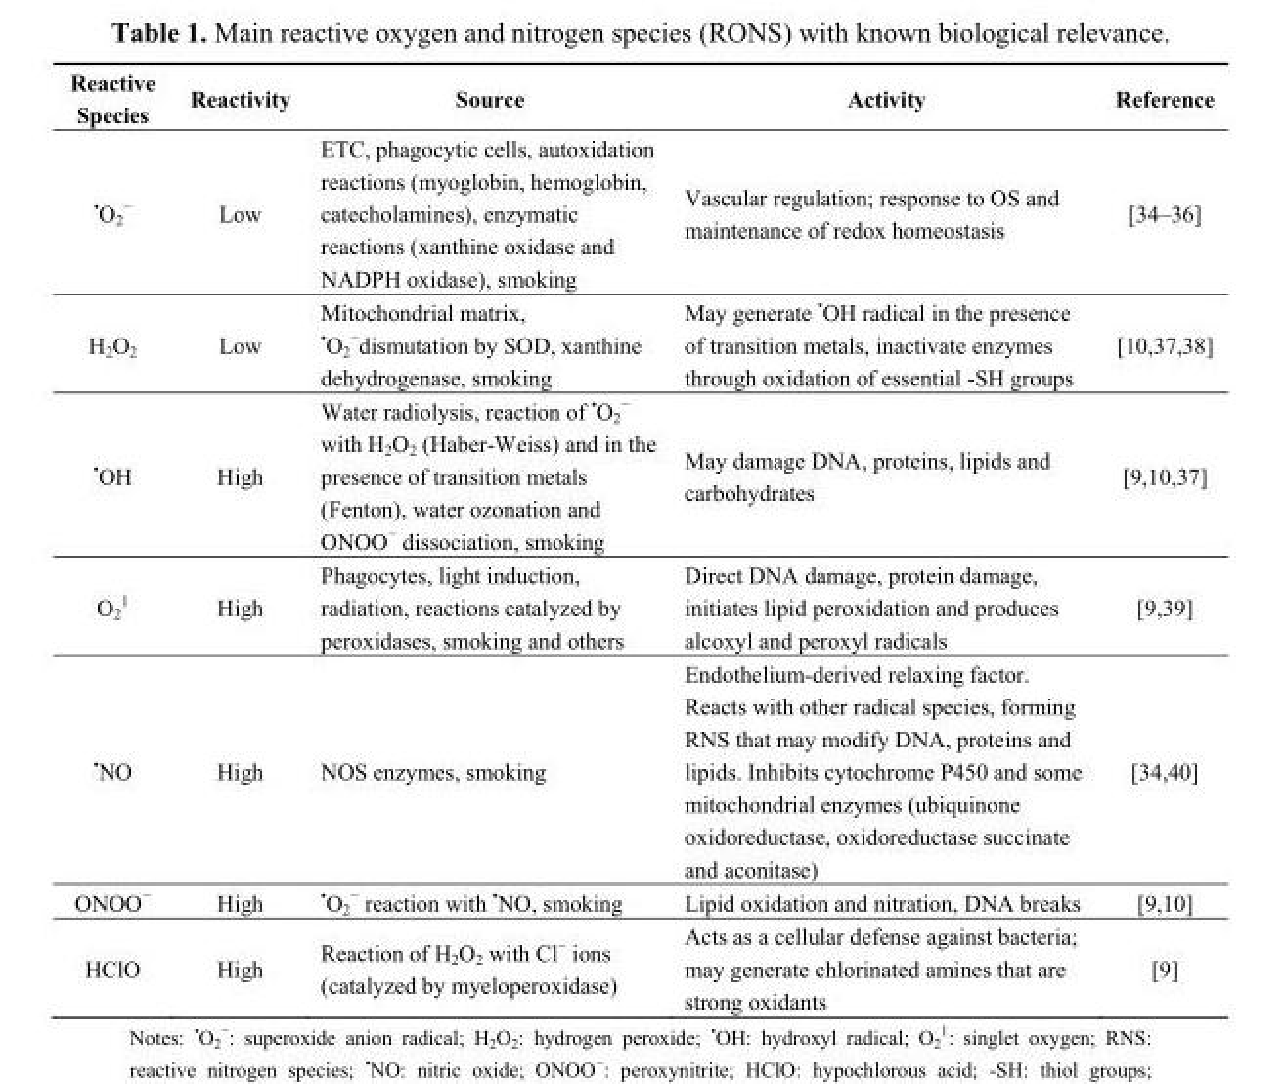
<table><thead><tr><td>Reactive Species</td><td>Reactivity</td><td>Source</td><td>Activity</td><td>Reference</td></tr></thead><tbody><tr><td><sup>•</sup>O<sub>2</sub> <sup>−</sup></td><td>Low</td><td>ETC, phagocytic cells, autoxidation reactions (myoglobin, hemoglobin, catecholamines), enzymatic reactions (xanthine oxidase and NADPH oxidase), smoking</td><td>Vascular regulation; response to OS and maintenance of redox homeostasis</td><td>[34–36]</td></tr><tr><td>H<sub>2</sub>O<sub>2</sub></td><td>Low</td><td>Mitochondrial matrix, <sup>•</sup>O<sub>2</sub> <sup>−</sup>dismutation by SOD, xanthine dehydrogenase, smoking</td><td>May generate <sup>•</sup>OH radical in the presence of transition metals, inactivate enzymes through oxidation of essential -SH groups</td><td>[10,37,38]</td></tr><tr><td><sup>•</sup>OH</td><td>High</td><td>Water radiolysis, reaction of <sup>•</sup>O<sub>2</sub> <sup>−</sup> with H<sub>2</sub>O<sub>2</sub> (Haber-Weiss) and in the presence of transition metals (Fenton), water ozonation and ONOO<sup>−</sup> dissociation, smoking</td><td>May damage DNA, proteins, lipids and carbohydrates</td><td>[9,10,37]</td></tr><tr><td>O<sub>2</sub> <sup>1</sup></td><td>High</td><td>Phagocytes, light induction, radiation, reactions catalyzed by peroxidases, smoking and others</td><td>Direct DNA damage, protein damage, initiates lipid peroxidation and produces alcoxyl and peroxyl radicals</td><td>[9,39]</td></tr><tr><td><sup>•</sup>NO</td><td>High</td><td>NOS enzymes, smoking</td><td>Endothelium-derived relaxing factor. Reacts with other radical species, forming RNS that may modify DNA, proteins and lipids. Inhibits cytochrome P450 and some mitochondrial enzymes (ubiquinone oxidoreductase, oxidoreductase succinate and aconitase)</td><td>[34,40]</td></tr><tr><td>ONOO<sup>−</sup></td><td>High</td><td>•O2 − reaction with •NO, smoking</td><td>Lipid oxidation and nitration, DNA breaks</td><td>[9,10]</td></tr><tr><td>HClO</td><td>High</td><td>Reaction of H<sub>2</sub>O<sub>2</sub> with Cl<sup>−</sup> ions (catalyzed by myeloperoxidase)</td><td>Acts as a cellular defense against bacteria; may generate chlorinated amines that are strong oxidants</td><td>[9]</td></tr></tbody></table>